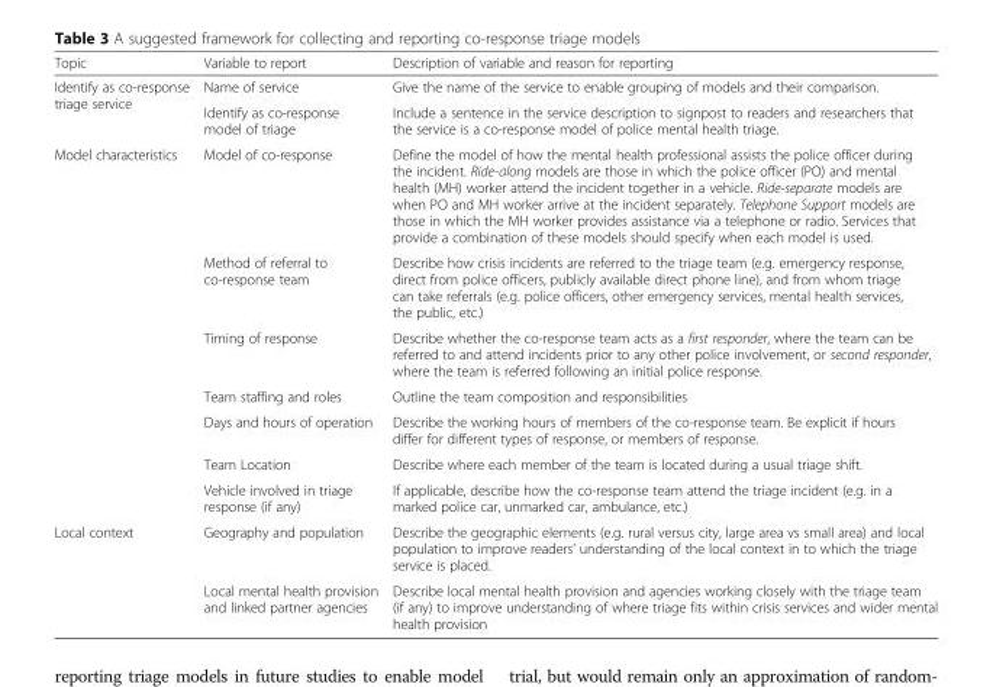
<table><thead><tr><td>Topic</td><td>Variable to report</td><td>Description of variable and reason for reporting</td></tr></thead><tbody><tr><td rowspan="2">Identify as co-response triage service</td><td>Name of service</td><td>Give the name of the service to enable grouping of models and their comparison.</td></tr><tr><td>Identify as co-response model of triage</td><td>Include a sentence in the service description to signpost to readers and researchers that the service is a co-response model of police mental health triage.</td></tr><tr><td rowspan="7">Model characteristics</td><td>Model of co-response</td><td>Define the model of how the mental health professional assists the police officer during the incident. Ride-along models are those in which the police officer (PO) and mental health (MH) worker attend the incident together in a vehicle. Ride-separate models are when PO and MH worker arrive at the incident separately. Telephone Support models are those in which the MH worker provides assistance via a telephone or radio. Services that provide a combination of these models should specify when each model is used.</td></tr><tr><td>Method of referral to co-response team</td><td>Describe how crisis incidents are referred to the triage team (e.g. emergency response, direct from police officers, publicly available direct phone line), and from whom triage can take referrals (e.g. police officers, other emergency services, mental health services, the public, etc.)</td></tr><tr><td>Timing of response</td><td>Describe whether the co-response team acts as a first responder, where the team can be referred to and attend incidents prior to any other police involvement, or second responder, where the team is referred following an initial police response.</td></tr><tr><td>Team staffing and roles</td><td>Outline the team composition and responsibilities</td></tr><tr><td>Days and hours of operation</td><td>Describe the working hours of members of the co-response team. Be explicit if hours differ for different types of response, or members of response.</td></tr><tr><td>Team Location</td><td>Describe where each member of the team is located during a usual triage shift.</td></tr><tr><td>Vehicle involved in triage response (if any)</td><td>If applicable, describe how the co-response team attend the triage incident (e.g. in a marked police car, unmarked car, ambulance, etc.)</td></tr><tr><td rowspan="2">Local context</td><td>Geography and population</td><td>Describe the geographic elements (e.g. rural versus city, large area vs small area) and local population to improve readers’ understanding of the local context in to which the triage service is placed.</td></tr><tr><td>Local mental health provision and linked partner agencies</td><td>Describe local mental health provision and agencies working closely with the triage team (if any) to improve understanding of where triage fits within crisis services and wider mental health provision</td></tr></tbody></table>